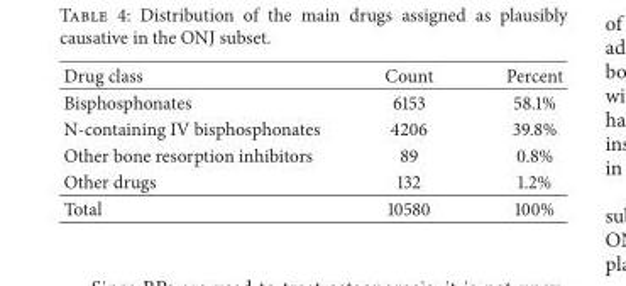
<table><thead><tr><td>Drug class</td><td>Count</td><td>Percent</td></tr></thead><tbody><tr><td>Bisphosphonates</td><td>6153</td><td>58.1%</td></tr><tr><td>N-containing IV bisphosphonates</td><td>4206</td><td>39.8%</td></tr><tr><td>Other bone resorption inhibitors</td><td>89</td><td>0.8%</td></tr><tr><td>Other drugs</td><td>132</td><td>1.2%</td></tr><tr><td>Total</td><td>10580</td><td>100%</td></tr></tbody></table>